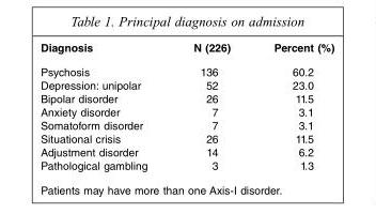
<table><thead><tr><td>Diagnosis</td><td>N (226)</td><td>Percent (%)</td></tr></thead><tbody><tr><td>Psychosis</td><td>136</td><td>60.2</td></tr><tr><td>Depression: unipolar</td><td>52</td><td>23.0</td></tr><tr><td>Bipolar disorder</td><td>26</td><td>11.5</td></tr><tr><td>Anxiety disorder</td><td>7</td><td>3.1</td></tr><tr><td>Somatoform disorder</td><td>7</td><td>3.1</td></tr><tr><td>Situational crisis</td><td>26</td><td>11.5</td></tr><tr><td>Adjustment disorder</td><td>14</td><td>6.2</td></tr><tr><td>Pathological gambling</td><td>3</td><td>1.3</td></tr></tbody></table>